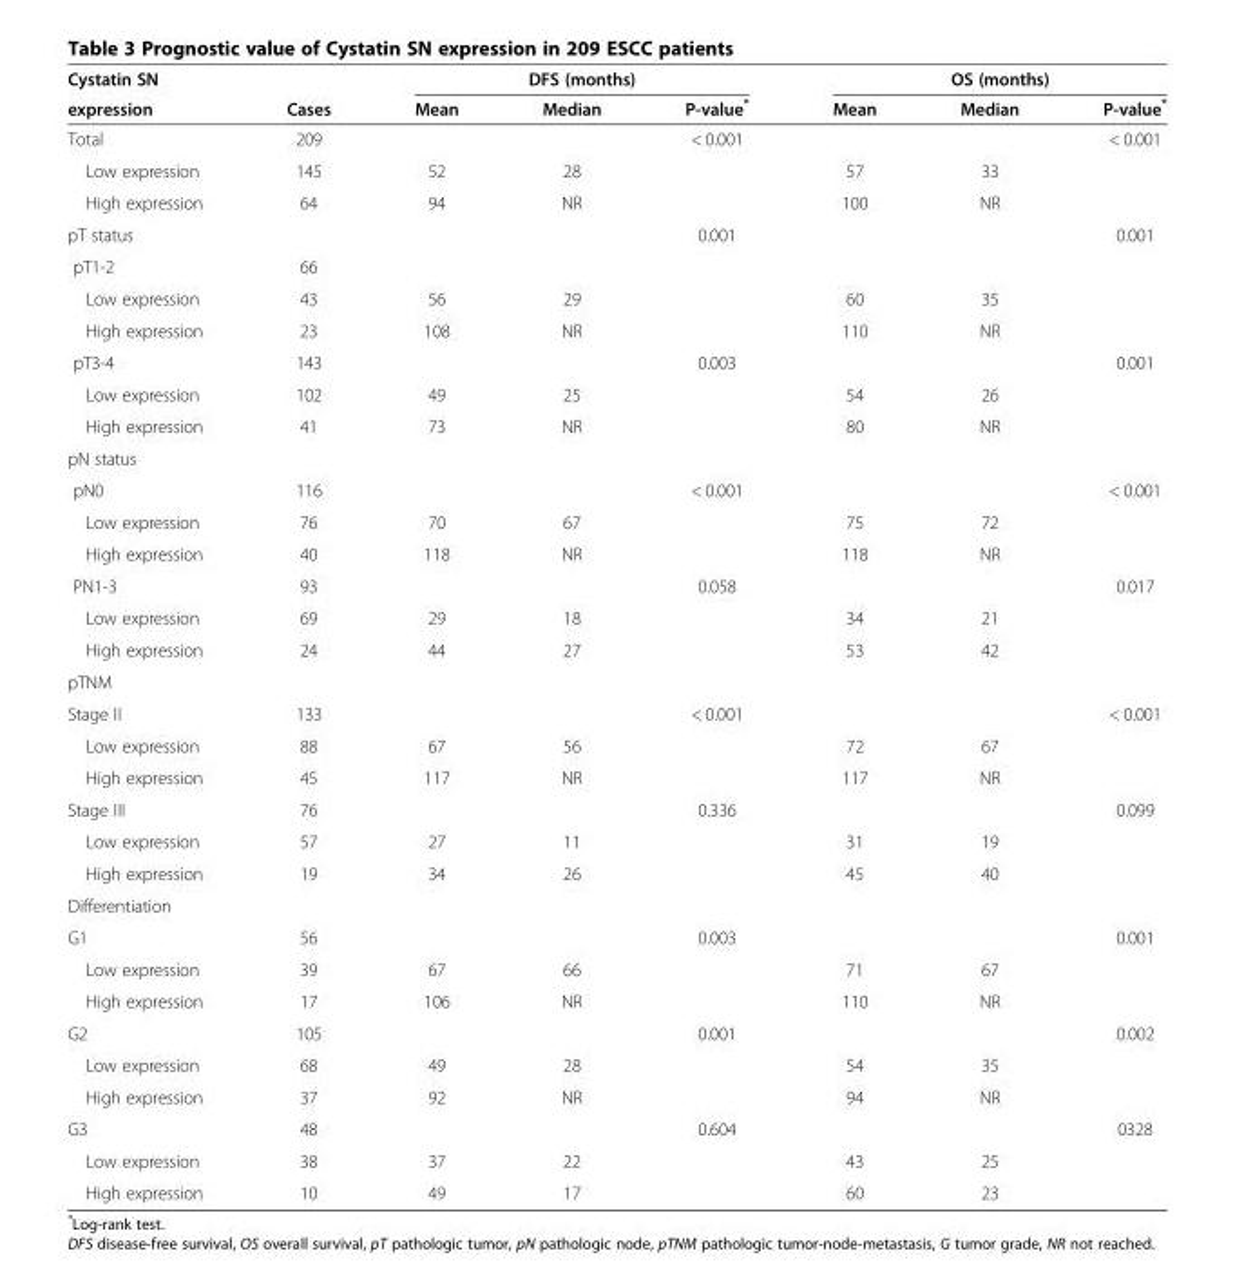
<table><thead><tr><td rowspan="2">Cystatin SN expression</td><td rowspan="2">Cases</td><td colspan="3">DFS (months)</td><td colspan="3">OS (months)</td></tr><tr><td>Mean</td><td>Median</td><td>P-value*</td><td>Mean</td><td>Median</td><td>P-value*</td></tr></thead><tbody><tr><td>Total</td><td>209</td><td></td><td></td><td>&lt; 0.001</td><td></td><td></td><td>&lt; 0.001</td></tr><tr><td>Low expression</td><td>145</td><td>52</td><td>28</td><td></td><td>57</td><td>33</td><td></td></tr><tr><td>High expression</td><td>64</td><td>94</td><td>NR</td><td></td><td>100</td><td>NR</td><td></td></tr><tr><td>pT status</td><td></td><td></td><td></td><td>0.001</td><td></td><td></td><td>0.001</td></tr><tr><td>pT1-2</td><td>66</td><td></td><td></td><td></td><td></td><td></td><td></td></tr><tr><td>Low expression</td><td>43</td><td>56</td><td>29</td><td></td><td>60</td><td>35</td><td></td></tr><tr><td>High expression</td><td>23</td><td>108</td><td>NR</td><td></td><td>110</td><td>NR</td><td></td></tr><tr><td>pT3-4</td><td>143</td><td></td><td></td><td>0.003</td><td></td><td></td><td>0.001</td></tr><tr><td>Low expression</td><td>102</td><td>49</td><td>25</td><td></td><td>54</td><td>26</td><td></td></tr><tr><td>High expression</td><td>41</td><td>73</td><td>NR</td><td></td><td>80</td><td>NR</td><td></td></tr><tr><td colspan="8">pN status</td></tr><tr><td>pN0</td><td>116</td><td></td><td></td><td>&lt; 0.001</td><td></td><td></td><td>&lt; 0.001</td></tr><tr><td>Low expression</td><td>76</td><td>70</td><td>67</td><td></td><td>75</td><td>72</td><td></td></tr><tr><td>High expression</td><td>40</td><td>118</td><td>NR</td><td></td><td>118</td><td>NR</td><td></td></tr><tr><td>PN1-3</td><td>93</td><td></td><td></td><td>0.058</td><td></td><td></td><td>0.017</td></tr><tr><td>Low expression</td><td>69</td><td>29</td><td>18</td><td></td><td>34</td><td>21</td><td></td></tr><tr><td>High expression</td><td>24</td><td>44</td><td>27</td><td></td><td>53</td><td>42</td><td></td></tr><tr><td colspan="8">pTNM</td></tr><tr><td>Stage II</td><td>133</td><td></td><td></td><td>&lt; 0.001</td><td></td><td></td><td>&lt; 0.001</td></tr><tr><td>Low expression</td><td>88</td><td>67</td><td>56</td><td></td><td>72</td><td>67</td><td></td></tr><tr><td>High expression</td><td>45</td><td>117</td><td>NR</td><td></td><td>117</td><td>NR</td><td></td></tr><tr><td>Stage III</td><td>76</td><td></td><td></td><td>0.336</td><td></td><td></td><td>0.099</td></tr><tr><td>Low expression</td><td>57</td><td>27</td><td>11</td><td></td><td>31</td><td>19</td><td></td></tr><tr><td>High expression</td><td>19</td><td>34</td><td>26</td><td></td><td>45</td><td>40</td><td></td></tr><tr><td colspan="8">Differentiation</td></tr><tr><td>G1</td><td>56</td><td></td><td></td><td>0.003</td><td></td><td></td><td>0.001</td></tr><tr><td>Low expression</td><td>39</td><td>67</td><td>66</td><td></td><td>71</td><td>67</td><td></td></tr><tr><td>High expression</td><td>17</td><td>106</td><td>NR</td><td></td><td>110</td><td>NR</td><td></td></tr><tr><td>G2</td><td>105</td><td></td><td></td><td>0.001</td><td></td><td></td><td>0.002</td></tr><tr><td>Low expression</td><td>68</td><td>49</td><td>28</td><td></td><td>54</td><td>35</td><td></td></tr><tr><td>High expression</td><td>37</td><td>92</td><td>NR</td><td></td><td>94</td><td>NR</td><td></td></tr><tr><td>G3</td><td>48</td><td></td><td></td><td>0.604</td><td></td><td></td><td>0328</td></tr><tr><td>Low expression</td><td>38</td><td>37</td><td>22</td><td></td><td>43</td><td>25</td><td></td></tr><tr><td>High expression</td><td>10</td><td>49</td><td>17</td><td></td><td>60</td><td>23</td><td></td></tr></tbody></table>